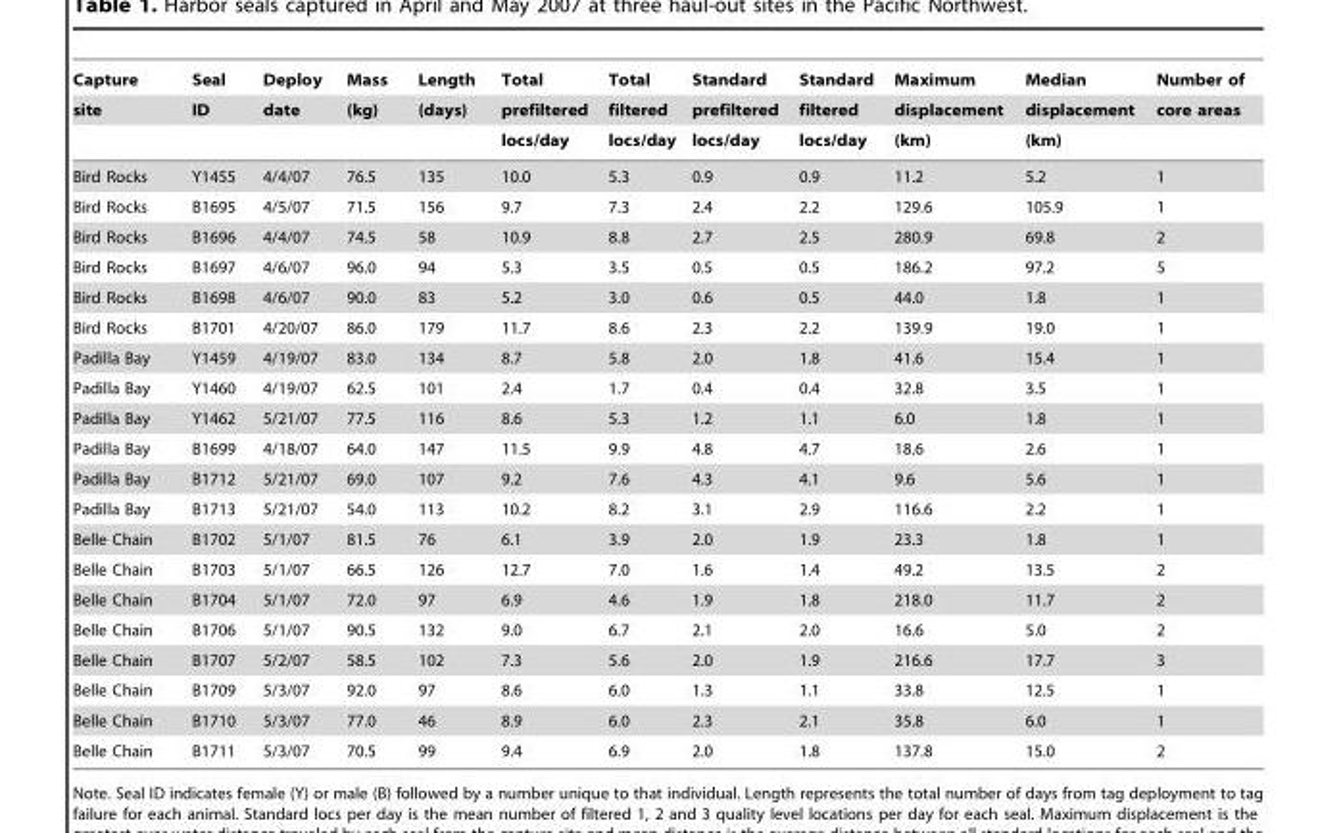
<table><thead><tr><td rowspan="3">Capture site</td><td rowspan="3">Seal ID</td><td rowspan="3">Deploy date</td><td rowspan="3">Mass (kg)</td><td rowspan="3">Length (days)</td><td rowspan="3">Total prefiltered locs/day</td><td rowspan="3">Total filtered locs/day</td><td rowspan="3">Standard prefiltered locs/day</td><td rowspan="3">Standard filtered locs/day</td><td rowspan="3">Maximum displacement (km)</td><td rowspan="3">Median displacement (km)</td><td rowspan="3">Number of core areas</td></tr><tr></tr><tr></tr></thead><tbody><tr><td>Bird Rocks</td><td>Y1455</td><td>4/4/07</td><td>76.5</td><td>135</td><td>10.0</td><td>5.3</td><td>0.9</td><td>0.9</td><td>11.2</td><td>5.2</td><td>1</td></tr><tr><td>Bird Rocks</td><td>B1695</td><td>4/5/07</td><td>71.5</td><td>156</td><td>9.7</td><td>7.3</td><td>2.4</td><td>2.2</td><td>129.6</td><td>105.9</td><td>1</td></tr><tr><td>Bird Rocks</td><td>B1696</td><td>4/4/07</td><td>74.5</td><td>58</td><td>10.9</td><td>8.8</td><td>2.7</td><td>2.5</td><td>280.9</td><td>69.8</td><td>2</td></tr><tr><td>Bird Rocks</td><td>B1697</td><td>4/6/07</td><td>96.0</td><td>94</td><td>5.3</td><td>3.5</td><td>0.5</td><td>0.5</td><td>186.2</td><td>97.2</td><td>5</td></tr><tr><td>Bird Rocks</td><td>B1698</td><td>4/6/07</td><td>90.0</td><td>83</td><td>5.2</td><td>3.0</td><td>0.6</td><td>0.5</td><td>44.0</td><td>1.8</td><td>1</td></tr><tr><td>Bird Rocks</td><td>B1701</td><td>4/20/07</td><td>86.0</td><td>179</td><td>11.7</td><td>8.6</td><td>2.3</td><td>2.2</td><td>139.9</td><td>19.0</td><td>1</td></tr><tr><td>Padilla Bay</td><td>Y1459</td><td>4/19/07</td><td>83.0</td><td>134</td><td>8.7</td><td>5.8</td><td>2.0</td><td>1.8</td><td>41.6</td><td>15.4</td><td>1</td></tr><tr><td>Padilla Bay</td><td>Y1460</td><td>4/19/07</td><td>62.5</td><td>101</td><td>2.4</td><td>1.7</td><td>0.4</td><td>0.4</td><td>32.8</td><td>3.5</td><td>1</td></tr><tr><td>Padilla Bay</td><td>Y1462</td><td>5/21/07</td><td>77.5</td><td>116</td><td>8.6</td><td>5.3</td><td>1.2</td><td>1.1</td><td>6.0</td><td>1.8</td><td>1</td></tr><tr><td>Padilla Bay</td><td>B1699</td><td>4/18/07</td><td>64.0</td><td>147</td><td>11.5</td><td>9.9</td><td>4.8</td><td>4.7</td><td>18.6</td><td>2.6</td><td>1</td></tr><tr><td>Padilla Bay</td><td>B1712</td><td>5/21/07</td><td>69.0</td><td>107</td><td>9.2</td><td>7.6</td><td>4.3</td><td>4.1</td><td>9.6</td><td>5.6</td><td>1</td></tr><tr><td>Padilla Bay</td><td>B1713</td><td>5/21/07</td><td>54.0</td><td>113</td><td>10.2</td><td>8.2</td><td>3.1</td><td>2.9</td><td>116.6</td><td>2.2</td><td>1</td></tr><tr><td>Belle Chain</td><td>B1702</td><td>5/1/07</td><td>81.5</td><td>76</td><td>6.1</td><td>3.9</td><td>2.0</td><td>1.9</td><td>23.3</td><td>1.8</td><td>1</td></tr><tr><td>Belle Chain</td><td>B1703</td><td>5/1/07</td><td>66.5</td><td>126</td><td>12.7</td><td>7.0</td><td>1.6</td><td>1.4</td><td>49.2</td><td>13.5</td><td>2</td></tr><tr><td>Belle Chain</td><td>B1704</td><td>5/1/07</td><td>72.0</td><td>97</td><td>6.9</td><td>4.6</td><td>1.9</td><td>1.8</td><td>218.0</td><td>11.7</td><td>2</td></tr><tr><td>Belle Chain</td><td>B1706</td><td>5/1/07</td><td>90.5</td><td>132</td><td>9.0</td><td>6.7</td><td>2.1</td><td>2.0</td><td>16.6</td><td>5.0</td><td>2</td></tr><tr><td>Belle Chain</td><td>B1707</td><td>5/2/07</td><td>58.5</td><td>102</td><td>7.3</td><td>5.6</td><td>2.0</td><td>1.9</td><td>216.6</td><td>17.7</td><td>3</td></tr><tr><td>Belle Chain</td><td>B1709</td><td>5/3/07</td><td>92.0</td><td>97</td><td>8.6</td><td>6.0</td><td>1.3</td><td>1.1</td><td>33.8</td><td>12.5</td><td>1</td></tr><tr><td>Belle Chain</td><td>B1710</td><td>5/3/07</td><td>77.0</td><td>46</td><td>8.9</td><td>6.0</td><td>2.3</td><td>2.1</td><td>35.8</td><td>6.0</td><td>1</td></tr><tr><td>Belle Chain</td><td>B1711</td><td>5/3/07</td><td>70.5</td><td>99</td><td>9.4</td><td>6.9</td><td>2.0</td><td>1.8</td><td>137.8</td><td>15.0</td><td>2</td></tr></tbody></table>